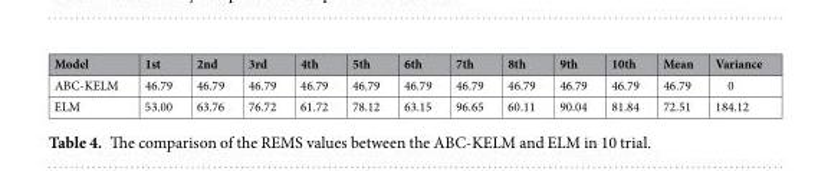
<table><thead><tr><td>Model</td><td>1st</td><td>2nd</td><td>3rd</td><td>4th</td><td>5th</td><td>6th</td><td>7th</td><td>8th</td><td>9th</td><td>10th</td><td>Mean</td><td>Variance</td></tr></thead><tbody><tr><td>ABC-KELM</td><td>46.79</td><td>46.79</td><td>46.79</td><td>46.79</td><td>46.79</td><td>46.79</td><td>46.79</td><td>46.79</td><td>46.79</td><td>46.79</td><td>46.79</td><td>0</td></tr><tr><td>ELM</td><td>53.00</td><td>63.76</td><td>76.72</td><td>61.72</td><td>78.12</td><td>63.15</td><td>96.65</td><td>60.11</td><td>90.04</td><td>81.84</td><td>72.51</td><td>184.12</td></tr></tbody></table>